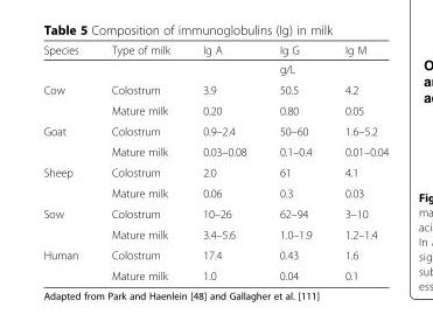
<table><thead><tr><td>Species</td><td>Type of milk</td><td>Ig A</td><td>Ig G</td><td>Ig M</td></tr></thead><tbody><tr><td></td><td></td><td></td><td>g/L</td><td></td></tr><tr><td rowspan="2">Cow</td><td>Colostrum</td><td>3.9</td><td>50.5</td><td>4.2</td></tr><tr><td>Mature milk</td><td>0.20</td><td>0.80</td><td>0.05</td></tr><tr><td rowspan="2">Goat</td><td>Colostrum</td><td>0.9–2.4</td><td>50–60</td><td>1.6–5.2</td></tr><tr><td>Mature milk</td><td>0.03–0.08</td><td>0.1–0.4</td><td>0.01–0.04</td></tr><tr><td rowspan="2">Sheep</td><td>Colostrum</td><td>2.0</td><td>61</td><td>4.1</td></tr><tr><td>Mature milk</td><td>0.06</td><td>0.3</td><td>0.03</td></tr><tr><td rowspan="2">Sow</td><td>Colostrum</td><td>10–26</td><td>62–94</td><td>3–10</td></tr><tr><td>Mature milk</td><td>3.4–5.6</td><td>1.0–1.9</td><td>1.2–1.4</td></tr><tr><td rowspan="2">Human</td><td>Colostrum</td><td>17.4</td><td>0.43</td><td>1.6</td></tr><tr><td>Mature milk</td><td>1.0</td><td>0.04</td><td>0.1</td></tr></tbody></table>